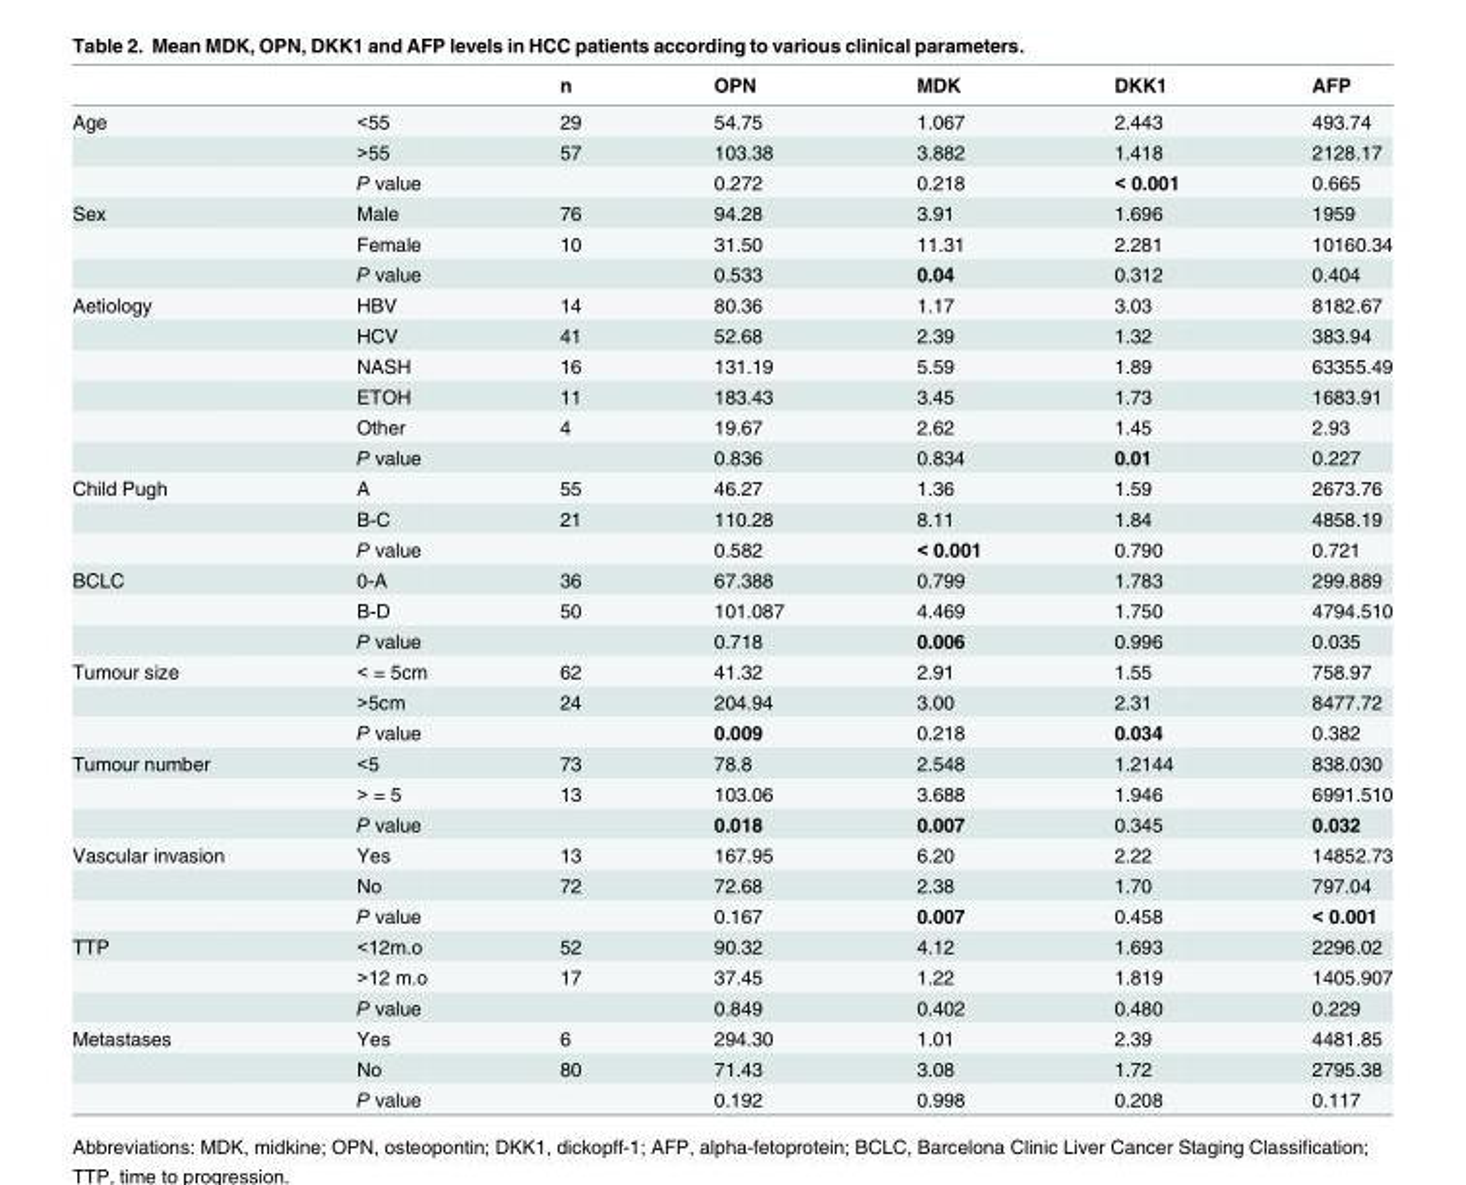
<table><thead><tr><td></td><td></td><td>n</td><td>OPN</td><td>MDK</td><td>DKK1</td><td>AFP</td></tr></thead><tbody><tr><td rowspan="3">Age</td><td>&lt;55</td><td>29</td><td>54.75</td><td>1.067</td><td>2.443</td><td>493.74</td></tr><tr><td>&gt;55</td><td>57</td><td>103.38</td><td>3.882</td><td>1.418</td><td>2128.17</td></tr><tr><td>P value</td><td></td><td>0.272</td><td>0.218</td><td>&lt; 0.001</td><td>0.665</td></tr><tr><td rowspan="3">Sex</td><td>Male</td><td>76</td><td>94.28</td><td>3.91</td><td>1.696</td><td>1959</td></tr><tr><td>Female</td><td>10</td><td>31.50</td><td>11.31</td><td>2.281</td><td>10160.34</td></tr><tr><td>P value</td><td></td><td>0.533</td><td>0.04</td><td>0.312</td><td>0.404</td></tr><tr><td rowspan="6">Aetiology</td><td>HBV</td><td>14</td><td>80.36</td><td>1.17</td><td>3.03</td><td>8182.67</td></tr><tr><td>HCV</td><td>41</td><td>52.68</td><td>2.39</td><td>1.32</td><td>383.94</td></tr><tr><td>NASH</td><td>16</td><td>131.19</td><td>5.59</td><td>1.89</td><td>63355.49</td></tr><tr><td>ETOH</td><td>11</td><td>183.43</td><td>3.45</td><td>1.73</td><td>1683.91</td></tr><tr><td>Other</td><td>4</td><td>19.67</td><td>2.62</td><td>1.45</td><td>2.93</td></tr><tr><td>P value</td><td></td><td>0.836</td><td>0.834</td><td>0.01</td><td>0.227</td></tr><tr><td rowspan="3">Child Pugh</td><td>A</td><td>55</td><td>46.27</td><td>1.36</td><td>1.59</td><td>2673.76</td></tr><tr><td>B-C</td><td>21</td><td>110.28</td><td>8.11</td><td>1.84</td><td>4858.19</td></tr><tr><td>P value</td><td></td><td>0.582</td><td>&lt; 0.001</td><td>0.790</td><td>0.721</td></tr><tr><td rowspan="3">BCLC</td><td>0-A</td><td>36</td><td>67.388</td><td>0.799</td><td>1.783</td><td>299.889</td></tr><tr><td>B-D</td><td>50</td><td>101.087</td><td>4.469</td><td>1.750</td><td>4794.510</td></tr><tr><td>P value</td><td></td><td>0.718</td><td>0.006</td><td>0.996</td><td>0.035</td></tr><tr><td rowspan="3">Tumour size</td><td>&lt; = 5cm</td><td>62</td><td>41.32</td><td>2.91</td><td>1.55</td><td>758.97</td></tr><tr><td>&gt;5cm</td><td>24</td><td>204.94</td><td>3.00</td><td>2.31</td><td>8477.72</td></tr><tr><td>P value</td><td></td><td>0.009</td><td>0.218</td><td>0.034</td><td>0.382</td></tr><tr><td rowspan="3">Tumour number</td><td>&lt;5</td><td>73</td><td>78.8</td><td>2.548</td><td>1.2144</td><td>838.030</td></tr><tr><td>&gt; = 5</td><td>13</td><td>103.06</td><td>3.688</td><td>1.946</td><td>6991.510</td></tr><tr><td>P value</td><td></td><td>0.018</td><td>0.007</td><td>0.345</td><td>0.032</td></tr><tr><td rowspan="3">Vascular invasion</td><td>Yes</td><td>13</td><td>167.95</td><td>6.20</td><td>2.22</td><td>14852.73</td></tr><tr><td>No</td><td>72</td><td>72.68</td><td>2.38</td><td>1.70</td><td>797.04</td></tr><tr><td>P value</td><td></td><td>0.167</td><td>0.007</td><td>0.458</td><td>&lt; 0.001</td></tr><tr><td rowspan="3">TTP</td><td>&lt;12m.o</td><td>52</td><td>90.32</td><td>4.12</td><td>1.693</td><td>2296.02</td></tr><tr><td>&gt;12 m.o</td><td>17</td><td>37.45</td><td>1.22</td><td>1.819</td><td>1405.907</td></tr><tr><td>P value</td><td></td><td>0.849</td><td>0.402</td><td>0.480</td><td>0.229</td></tr><tr><td rowspan="3">Metastases</td><td>Yes</td><td>6</td><td>294.30</td><td>1.01</td><td>2.39</td><td>4481.85</td></tr><tr><td>No</td><td>80</td><td>71.43</td><td>3.08</td><td>1.72</td><td>2795.38</td></tr><tr><td>P value</td><td></td><td>0.192</td><td>0.998</td><td>0.208</td><td>0.117</td></tr></tbody></table>